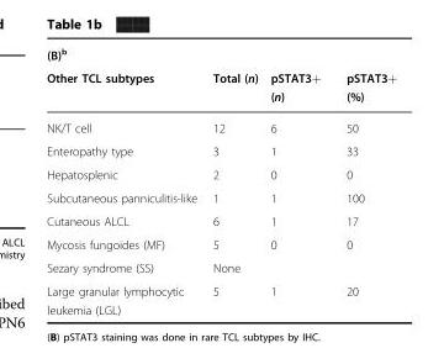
<table><thead><tr><td rowspan="2">(B)<sup>b</sup> Other TCL subtypes</td><td rowspan="2">Total (n)</td><td rowspan="2">pSTAT3+ (n)</td><td rowspan="2">pSTAT3+ (%)</td></tr><tr></tr></thead><tbody><tr><td>NK/T cell</td><td>12</td><td>6</td><td>50</td></tr><tr><td>Enteropathy type</td><td>3</td><td>1</td><td>33</td></tr><tr><td>Hepatosplenic</td><td>2</td><td>0</td><td>0</td></tr><tr><td>Subcutaneous panniculitis-like</td><td>1</td><td>1</td><td>100</td></tr><tr><td>Cutaneous ALCL</td><td>6</td><td>1</td><td>17</td></tr><tr><td>Mycosis fungoides (MF)</td><td>5</td><td>0</td><td>0</td></tr><tr><td>Sezary syndrome (SS)</td><td>None</td><td></td><td></td></tr><tr><td>Large granular lymphocytic leukemia (LGL)</td><td>5</td><td>1</td><td>20</td></tr></tbody></table>